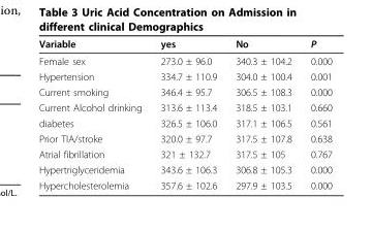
<table><thead><tr><td>Variable</td><td>yes</td><td>No</td><td>P</td></tr></thead><tbody><tr><td>Female sex</td><td>273.0 ± 96.0</td><td>340.3 ± 104.2</td><td>0.000</td></tr><tr><td>Hypertension</td><td>334.7 ± 110.9</td><td>304.0 ± 100.4</td><td>0.001</td></tr><tr><td>Current smoking</td><td>346.4 ± 95.7</td><td>306.5 ± 108.3</td><td>0.000</td></tr><tr><td>Current Alcohol drinking</td><td>313.6 ± 113.4</td><td>318.5 ± 103.1</td><td>0.660</td></tr><tr><td>diabetes</td><td>326.5 ± 106.0</td><td>317.1 ± 106.5</td><td>0.561</td></tr><tr><td>Prior TIA/stroke</td><td>320.0 ± 97.7</td><td>317.5 ± 107.8</td><td>0.638</td></tr><tr><td>Atrial fibrillation</td><td>321 ± 132.7</td><td>317.5 ± 105</td><td>0.767</td></tr><tr><td>Hypertriglyceridemia</td><td>343.6 ± 106.3</td><td>306.8 ± 105.3</td><td>0.000</td></tr><tr><td>Hypercholesterolemia</td><td>357.6 ± 102.6</td><td>297.9 ± 103.5</td><td>0.000</td></tr></tbody></table>